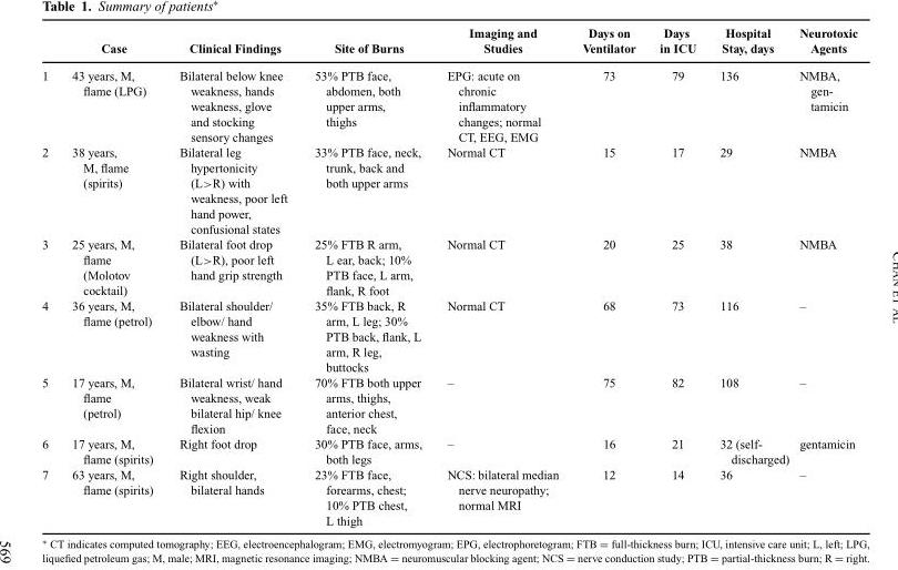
<table><thead><tr><td></td><td>Case</td><td>Clinical Findings</td><td>Site of Burns</td><td>Studies</td><td>Ventilator</td><td>in ICU</td><td>Stay, days</td><td>Agents</td></tr></thead><tbody><tr><td>1</td><td>43 years, M, flame (LPG)</td><td>Bilateral below knee weakness, hands weakness, glove and stocking sensory changes</td><td>53% PTB face, abdomen, both upper arms, thighs</td><td>EPG: acute on chronic inflammatory changes; normal CT, EEG, EMG</td><td>73</td><td>79</td><td>136</td><td>NMBA, gen- tamicin</td></tr><tr><td>2</td><td>38 years, M, flame (spirits)</td><td>Bilateral leg hypertonicity (L&gt;R) with weakness, poor left hand power, confusional states</td><td>33% PTB face, neck, trunk, back and both upper arms</td><td>Normal CT</td><td>15</td><td>17</td><td>29</td><td>NMBA</td></tr><tr><td>3</td><td>25 years, M, flame (Molotov cocktail)</td><td>Bilateral foot drop (L&gt;R), poor left hand grip strength</td><td>25% FTB R arm, L ear, back; 10% PTB face, L arm, flank, R foot</td><td>Normal CT</td><td>20</td><td>25</td><td>38</td><td>NMBA</td></tr><tr><td>4</td><td>36 years, M, flame (petrol)</td><td>Bilateral shoulder/ elbow/ hand weakness with wasting</td><td>35% FTB back, R arm, L leg; 30% PTB back, flank, L arm, R leg, buttocks</td><td>Normal CT</td><td>68</td><td>73</td><td>116</td><td>–</td></tr><tr><td>5</td><td>17 years, M, flame (petrol)</td><td>Bilateral wrist/ hand weakness, weak bilateral hip/ knee flexion</td><td>70% FTB both upper arms, thighs, anterior chest, face, neck</td><td>–</td><td>75</td><td>82</td><td>108</td><td>–</td></tr><tr><td>6</td><td>17 years, M, flame (spirits)</td><td>Right foot drop</td><td>30% PTB face, arms, both legs</td><td>–</td><td>16</td><td>21</td><td>32 (self- discharged)</td><td>gentamicin</td></tr><tr><td>7</td><td>63 years, M, flame (spirits)</td><td>Right shoulder, bilateral hands</td><td>23% FTB face, forearms, chest; 10% PTB chest, L thigh</td><td>NCS: bilateral median nerve neuropathy; normal MRI</td><td>12</td><td>14</td><td>36</td><td>–</td></tr></tbody></table>